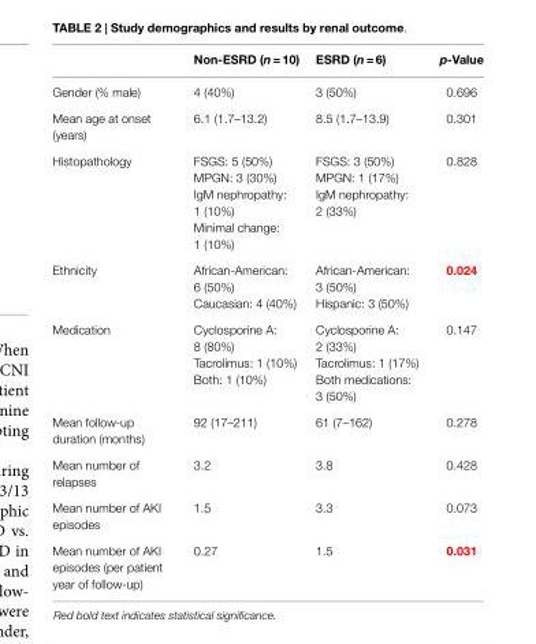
<table><thead><tr><td></td><td>Non-ESRD (n = 10)</td><td>ESRD (n = 6)</td><td>p-Value</td></tr></thead><tbody><tr><td>Gender (% male)</td><td>4 (40%)</td><td>3 (50%)</td><td>0.696</td></tr><tr><td>Mean age at onset (years)</td><td>6.1 (1.7–13.2)</td><td>8.5 (1.7–13.9)</td><td>0.301</td></tr><tr><td rowspan="4">Histopathology</td><td>FSGS: 5 (50%)</td><td>FSGS: 3 (50%)</td><td>0.828</td></tr><tr><td>MPGN: 3 (30%)</td><td>MPGN: 1 (17%)</td><td></td></tr><tr><td>IgM nephropathy: 1 (10%)</td><td>IgM nephropathy: 2 (33%)</td><td></td></tr><tr><td>Minimal change: 1 (10%)</td><td></td><td></td></tr><tr><td rowspan="2">Ethnicity</td><td>African-American: 6 (50%)</td><td>African-American: 3 (50%)</td><td>0.024</td></tr><tr><td>Caucasian: 4 (40%)</td><td>Hispanic: 3 (50%)</td><td></td></tr><tr><td rowspan="3">Medication</td><td>Cyclosporine A: 8 (80%)</td><td>Cyclosporine A: 2 (33%)</td><td>0.147</td></tr><tr><td>Tacrolimus: 1 (10%)</td><td>Tacrolimus: 1 (17%)</td><td></td></tr><tr><td>Both: 1 (10%)</td><td>Both medications: 3 (50%)</td><td></td></tr><tr><td>Mean follow-up duration (months)</td><td>92 (17–211)</td><td>61 (7–162)</td><td>0.278</td></tr><tr><td>Mean number of relapses</td><td>3.2</td><td>3.8</td><td>0.428</td></tr><tr><td>Mean number of AKI episodes</td><td>1.5</td><td>3.3</td><td>0.073</td></tr><tr><td>Mean number of AKI episodes (per patient year of follow-up)</td><td>0.27</td><td>1.5</td><td>0.031</td></tr></tbody></table>